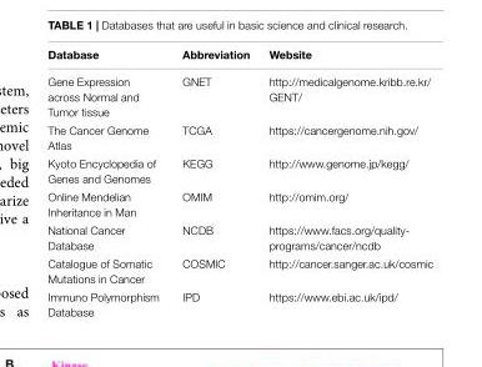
<table><thead><tr><td>Database</td><td>Abbreviation</td><td>Website</td></tr></thead><tbody><tr><td>Gene Expression across Normal and Tumor tissue</td><td>GNET</td><td>http://medicalgenome.kribb.re.kr/ GENT/</td></tr><tr><td>The Cancer Genome Atlas</td><td>TCGA</td><td>https://cancergenome.nih.gov/</td></tr><tr><td>Kyoto Encyclopedia of Genes and Genomes</td><td>KEGG</td><td>http://www.genome.jp/kegg/</td></tr><tr><td>Online Mendelian Inheritance in Man</td><td>OMIM</td><td>http://omim.org/</td></tr><tr><td>National Cancer Database</td><td>NCDB</td><td>https://www.facs.org/quality- programs/cancer/ncdb</td></tr><tr><td>Catalogue of Somatic Mutations in Cancer</td><td>COSMIC</td><td>http://cancer.sanger.ac.uk/cosmic</td></tr><tr><td>Immuno Polymorphism Database</td><td>IPD</td><td>https://www.ebi.ac.uk/ipd/</td></tr></tbody></table>